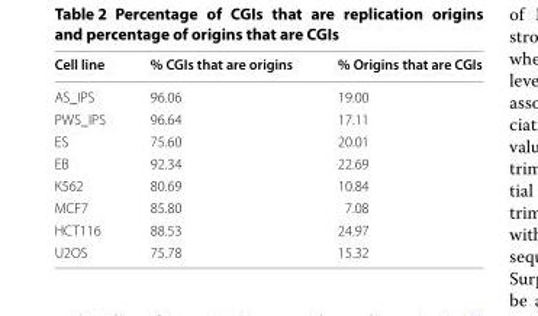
<table><thead><tr><td>Cell line</td><td>% CGIs that are origins</td><td>% Origins that are CGIs</td></tr></thead><tbody><tr><td>AS_IPS</td><td>96.06</td><td>19.00</td></tr><tr><td>PWS_IPS</td><td>96.64</td><td>17.11</td></tr><tr><td>ES</td><td>75.60</td><td>20.01</td></tr><tr><td>EB</td><td>92.34</td><td>22.69</td></tr><tr><td>K562</td><td>80.69</td><td>10.84</td></tr><tr><td>MCF7</td><td>85.80</td><td>7.08</td></tr><tr><td>HCT116</td><td>88.53</td><td>24.97</td></tr><tr><td>U2OS</td><td>75.78</td><td>15.32</td></tr></tbody></table>